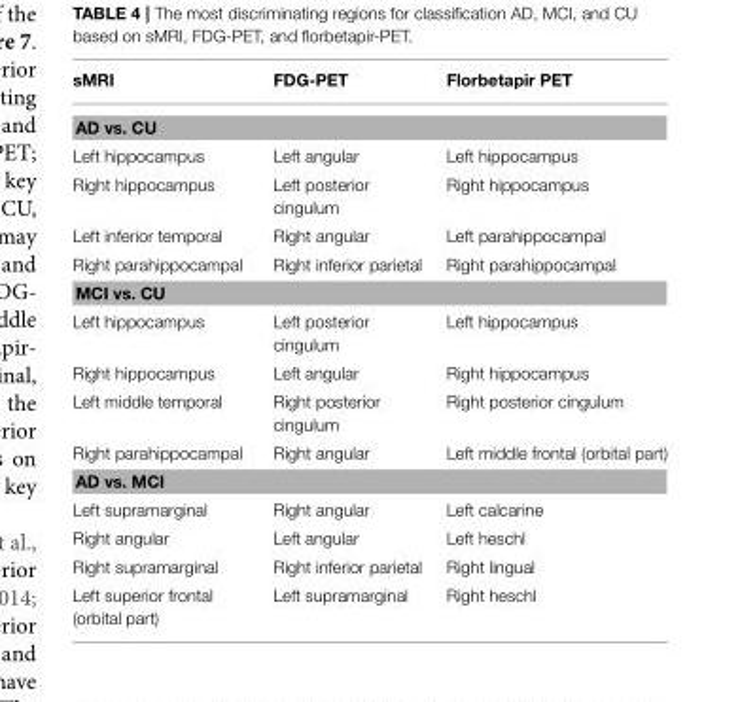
<table><thead><tr><td>sMRI</td><td>FDG-PET</td><td>Florbetapir PET</td></tr></thead><tbody><tr><td colspan="3">AD vs. CU</td></tr><tr><td>Left hippocampus</td><td>Left angular</td><td>Left hippocampus</td></tr><tr><td>Right hippocampus</td><td>Left posterior cingulum</td><td>Right hippocampus</td></tr><tr><td>Left inferior temporal</td><td>Right angular</td><td>Left parahippocampal</td></tr><tr><td>Right parahippocampal</td><td>Right inferior parietal</td><td>Right parahippocampal</td></tr><tr><td colspan="3">MCI vs. CU</td></tr><tr><td>Left hippocampus</td><td>Left posterior cingulum</td><td>Left hippocampus</td></tr><tr><td>Right hippocampus</td><td>Left angular</td><td>Right hippocampus</td></tr><tr><td>Left middle temporal</td><td>Right posterior cingulum</td><td>Right posterior cingulum</td></tr><tr><td>Right parahippocampal</td><td>Right angular</td><td>Left middle frontal (orbital part)</td></tr><tr><td colspan="3">AD vs. MCI</td></tr><tr><td>Left supramarginal</td><td>Right angular</td><td>Left calcarine</td></tr><tr><td>Right angular</td><td>Left angular</td><td>Left heschl</td></tr><tr><td>Right supramarginal</td><td>Right inferior parietal</td><td>Right lingual</td></tr><tr><td>Left superior frontal (orbital part)</td><td>Left supramarginal</td><td>Right heschl</td></tr></tbody></table>